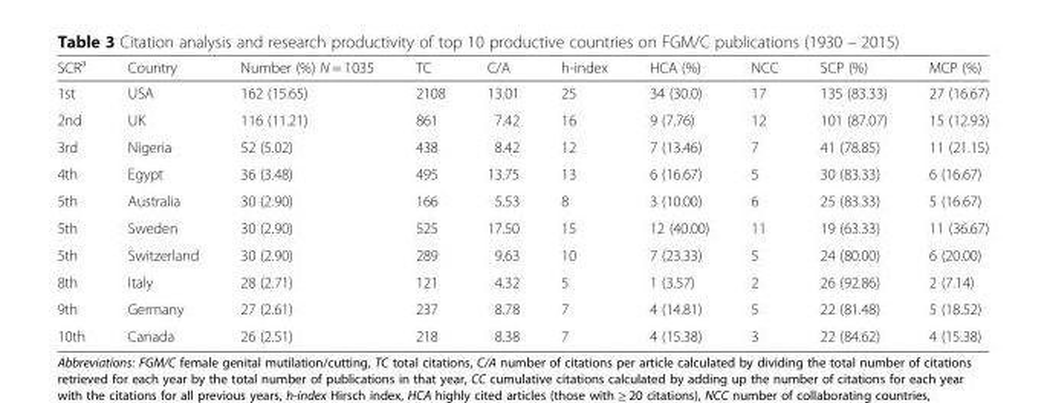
<table><thead><tr><td>SCR<sup>a</sup></td><td>Country</td><td>Number (%) N = 1035</td><td>TC</td><td>C/A</td><td>h-index</td><td>HCA (%)</td><td>NCC</td><td>SCP (%)</td><td>MCP (%)</td></tr></thead><tbody><tr><td>1st</td><td>USA</td><td>162 (15.65)</td><td>2108</td><td>13.01</td><td>25</td><td>34 (30.0)</td><td>17</td><td>135 (83.33)</td><td>27 (16.67)</td></tr><tr><td>2nd</td><td>UK</td><td>116 (11.21)</td><td>861</td><td>7.42</td><td>16</td><td>9 (7.76)</td><td>12</td><td>101 (87.07)</td><td>15 (12.93)</td></tr><tr><td>3rd</td><td>Nigeria</td><td>52 (5.02)</td><td>438</td><td>8.42</td><td>12</td><td>7 (13.46)</td><td>7</td><td>41 (78.85)</td><td>11 (21.15)</td></tr><tr><td>4th</td><td>Egypt</td><td>36 (3.48)</td><td>495</td><td>13.75</td><td>13</td><td>6 (16.67)</td><td>5</td><td>30 (83.33)</td><td>6 (16.67)</td></tr><tr><td>5th</td><td>Australia</td><td>30 (2.90)</td><td>166</td><td>5.53</td><td>8</td><td>3 (10.00)</td><td>6</td><td>25 (83.33)</td><td>5 (16.67)</td></tr><tr><td>5th</td><td>Sweden</td><td>30 (2.90)</td><td>525</td><td>17.50</td><td>15</td><td>12 (40.00)</td><td>11</td><td>19 (63.33)</td><td>11 (36.67)</td></tr><tr><td>5th</td><td>Switzerland</td><td>30 (2.90)</td><td>289</td><td>9.63</td><td>10</td><td>7 (23.33)</td><td>5</td><td>24 (80.00)</td><td>6 (20.00)</td></tr><tr><td>8th</td><td>Italy</td><td>28 (2.71)</td><td>121</td><td>4.32</td><td>5</td><td>1 (3.57)</td><td>2</td><td>26 (92.86)</td><td>2 (7.14)</td></tr><tr><td>9th</td><td>Germany</td><td>27 (2.61)</td><td>237</td><td>8.78</td><td>7</td><td>4 (14.81)</td><td>5</td><td>22 (81.48)</td><td>5 (18.52)</td></tr><tr><td>10th</td><td>Canada</td><td>26 (2.51)</td><td>218</td><td>8.38</td><td>7</td><td>4 (15.38)</td><td>3</td><td>22 (84.62)</td><td>4 (15.38)</td></tr></tbody></table>